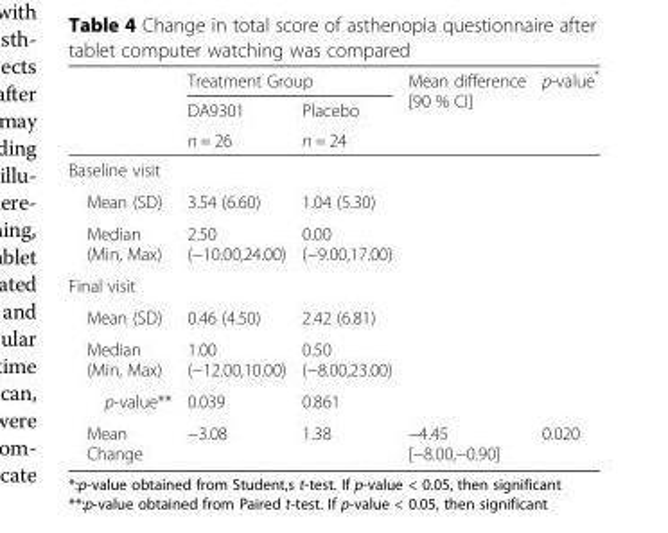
<table><thead><tr><td rowspan="3"></td><td colspan="2">Treatment Group</td><td rowspan="3">Mean difference [90 % CI]</td><td rowspan="3">p-value*</td></tr><tr><td rowspan="2">DA9301 n = 26</td><td rowspan="2">Placebo n = 24</td></tr><tr></tr></thead><tbody><tr><td colspan="5">Baseline visit</td></tr><tr><td>Mean (SD)</td><td>3.54 (6.60)</td><td>1.04 (5.30)</td><td></td><td></td></tr><tr><td>Median (Min, Max)</td><td>2.50 (−10.00,24.00)</td><td>0.00 (−9.00,17.00)</td><td></td><td></td></tr><tr><td colspan="5">Final visit</td></tr><tr><td>Mean (SD)</td><td>0.46 (4.50)</td><td>2.42 (6.81)</td><td></td><td></td></tr><tr><td>Median (Min, Max)</td><td>1.00 (−12.00,10.00)</td><td>0.50 (−8.00,23.00)</td><td></td><td></td></tr><tr><td>p-value**</td><td>0.039</td><td>0.861</td><td></td><td></td></tr><tr><td>Mean Change</td><td>−3.08</td><td>1.38</td><td>−4.45 [−8.00,−0.90]</td><td>0.020</td></tr></tbody></table>